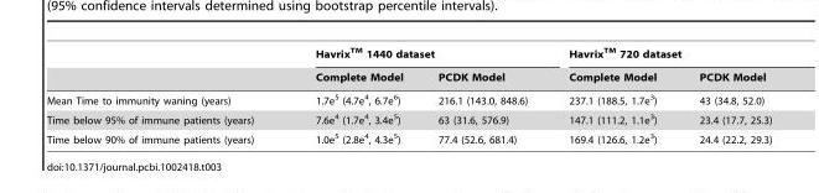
<table><thead><tr><td rowspan="2"></td><td colspan="2">HavrixTM 1440 dataset</td><td colspan="2">HavrixTM 720 dataset</td></tr><tr><td>Complete Model</td><td>PCDK Model</td><td>Complete Model</td><td>PCDK Model</td></tr></thead><tbody><tr><td>Mean Time to immunity waning (years)</td><td>1.7e<sup>5</sup> (4.7e<sup>4</sup>, 6.7e<sup>6</sup>)</td><td>216.1 (143.0, 848.6)</td><td>237.1 (188.5, 1.7e<sup>3</sup>)</td><td>43 (34.8, 52.0)</td></tr><tr><td>Time below 95% of immune patients (years)</td><td>7.6e<sup>4</sup> (1.7e<sup>4</sup>, 3.4e<sup>5</sup>)</td><td>63 (31.6, 576.9)</td><td>147.1 (111.2, 1.1e<sup>3</sup>)</td><td>23.4 (17.7, 25.3)</td></tr><tr><td>Time below 90% of immune patients (years)</td><td>1.0e<sup>5</sup> (2.8e<sup>4</sup>, 4.3e<sup>5</sup>)</td><td>77.4 (52.6, 681.4)</td><td>169.4 (126.6, 1.2e<sup>3</sup>)</td><td>24.4 (22.2, 29.3)</td></tr></tbody></table>